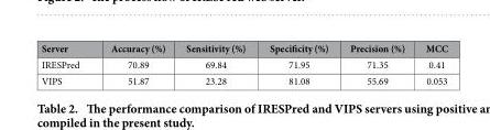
<table><thead><tr><td>Server</td><td>Accuracy (%)</td><td>Sensitivity (%)</td><td>Specificity (%)</td><td>Precision (%)</td><td>MCC</td></tr></thead><tbody><tr><td>IRESPred</td><td>70.89</td><td>69.84</td><td>71.95</td><td>71.35</td><td>0.41</td></tr><tr><td>VIPS</td><td>51.87</td><td>23.28</td><td>81.08</td><td>55.69</td><td>0.053</td></tr></tbody></table>